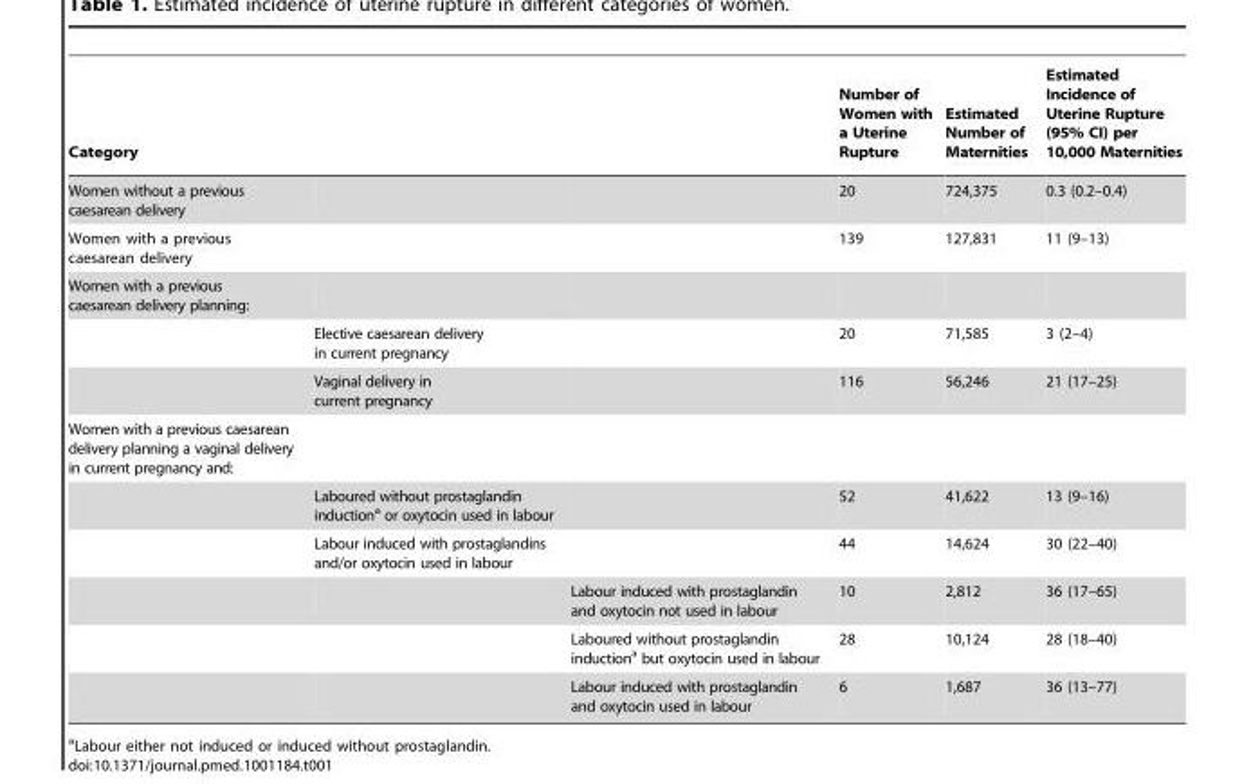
<table><thead><tr><td colspan="3">Category</td><td rowspan="2">Number of Women with a Uterine Rupture 20</td><td rowspan="2">Estimated Number of Maternities 724,375</td><td rowspan="2">Estimated Incidence of Uterine Rupture (95% CI) per 10,000 Maternities 0.3 (0.2–0.4)</td></tr><tr><td>Women without a previous caesarean delivery</td><td></td><td></td></tr></thead><tbody><tr><td>Women with a previous caesarean delivery</td><td></td><td></td><td>139</td><td>127,831</td><td>11 (9–13)</td></tr><tr><td colspan="6">Women with a previous caesarean delivery planning:</td></tr><tr><td></td><td>Elective caesarean delivery in current pregnancy</td><td></td><td>20</td><td>71,585</td><td>3 (2–4)</td></tr><tr><td></td><td>Vaginal delivery in current pregnancy</td><td></td><td>116</td><td>56,246</td><td>21 (17–25)</td></tr><tr><td colspan="6">Women with a previous caesarean delivery planning a vaginal delivery in current pregnancy and:</td></tr><tr><td></td><td>Laboured without prostaglandin induction<sup>a</sup> or oxytocin used in labour</td><td></td><td>52</td><td>41,622</td><td>13 (9–16)</td></tr><tr><td></td><td>Labour induced with prostaglandins and/or oxytocin used in labour</td><td></td><td>44</td><td>14,624</td><td>30 (22–40)</td></tr><tr><td></td><td></td><td>Labour induced with prostaglandin and oxytocin not used in labour</td><td>10</td><td>2,812</td><td>36 (17–65)</td></tr><tr><td></td><td></td><td>Laboured without prostaglandin induction<sup>a</sup> but oxytocin used in labour</td><td>28</td><td>10,124</td><td>28 (18–40)</td></tr><tr><td></td><td></td><td>Labour induced with prostaglandin and oxytocin used in labour</td><td>6</td><td>1,687</td><td>36 (13–77)</td></tr></tbody></table>